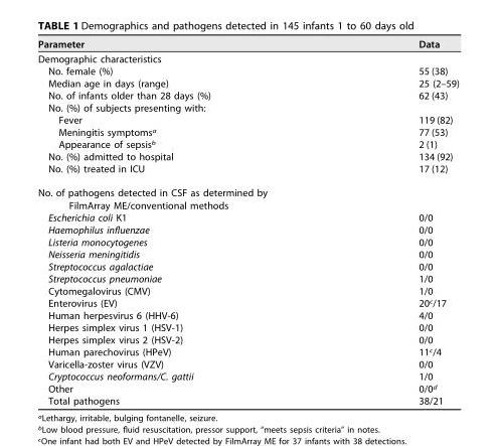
<table><thead><tr><td>Parameter</td><td>Data</td></tr></thead><tbody><tr><td colspan="2">Demographic characteristics</td></tr><tr><td>No. female (%)</td><td>55 (38)</td></tr><tr><td>Median age in days (range)</td><td>25 (2–59)</td></tr><tr><td>No. of infants older than 28 days (%)</td><td>62 (43)</td></tr><tr><td colspan="2">No. (%) of subjects presenting with:</td></tr><tr><td>Fever</td><td>119 (82)</td></tr><tr><td>Meningitis symptoms<sup>a</sup></td><td>77 (53)</td></tr><tr><td>Appearance of sepsis<sup>b</sup></td><td>2 (1)</td></tr><tr><td>No. (%) admitted to hospital</td><td>134 (92)</td></tr><tr><td>No. (%) treated in ICU</td><td>17 (12)</td></tr><tr><td colspan="2">No. of pathogens detected in CSF as determined by FilmArray ME/conventional methods</td></tr><tr><td>Escherichia coli K1</td><td>0/0</td></tr><tr><td>Haemophilus influenzae</td><td>0/0</td></tr><tr><td>Listeria monocytogenes</td><td>0/0</td></tr><tr><td>Neisseria meningitidis</td><td>0/0</td></tr><tr><td>Streptococcus agalactiae</td><td>0/0</td></tr><tr><td>Streptococcus pneumoniae</td><td>1/0</td></tr><tr><td>Cytomegalovirus (CMV)</td><td>1/0</td></tr><tr><td>Enterovirus (EV)</td><td>20<sup>c</sup>/17</td></tr><tr><td>Human herpesvirus 6 (HHV-6)</td><td>4/0</td></tr><tr><td>Herpes simplex virus 1 (HSV-1)</td><td>0/0</td></tr><tr><td>Herpes simplex virus 2 (HSV-2)</td><td>0/0</td></tr><tr><td>Human parechovirus (HPeV)</td><td>11<sup>c</sup>/4</td></tr><tr><td>Varicella-zoster virus (VZV)</td><td>0/0</td></tr><tr><td>Cryptococcus neoformans/C. gattii</td><td>1/0</td></tr><tr><td>Other</td><td>0/0<sup>d</sup></td></tr><tr><td>Total pathogens</td><td>38/21</td></tr></tbody></table>